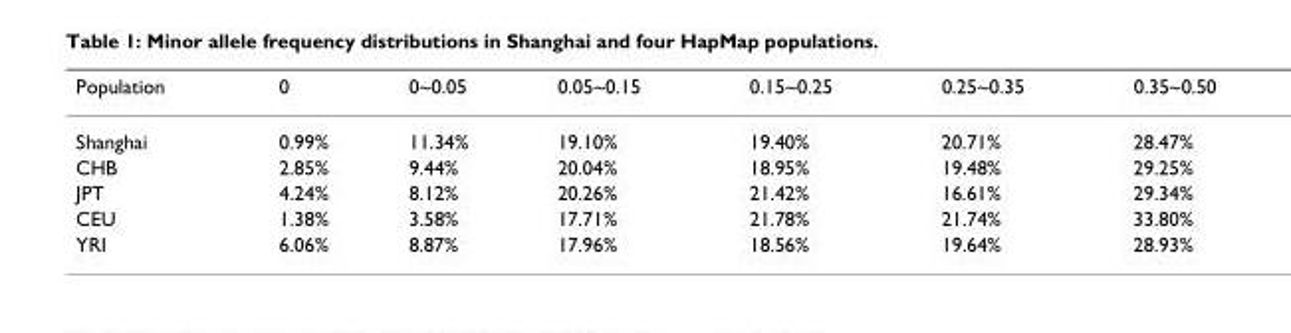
<table><thead><tr><td>Population</td><td>0</td><td>0~0.05</td><td>0.05~0.15</td><td>0.15~0.25</td><td>0.25~0.35</td><td>0.35~0.50</td></tr></thead><tbody><tr><td>Shanghai</td><td>0.99%</td><td>11.34%</td><td>19.10%</td><td>19.40%</td><td>20.71%</td><td>28.47%</td></tr><tr><td>CHB</td><td>2.85%</td><td>9.44%</td><td>20.04%</td><td>18.95%</td><td>19.48%</td><td>29.25%</td></tr><tr><td>JPT</td><td>4.24%</td><td>8.12%</td><td>20.26%</td><td>21.42%</td><td>16.61%</td><td>29.34%</td></tr><tr><td>CEU</td><td>1.38%</td><td>3.58%</td><td>17.71%</td><td>21.78%</td><td>21.74%</td><td>33.80%</td></tr><tr><td>YRI</td><td>6.06%</td><td>8.87%</td><td>17.96%</td><td>18.56%</td><td>19.64%</td><td>28.93%</td></tr></tbody></table>